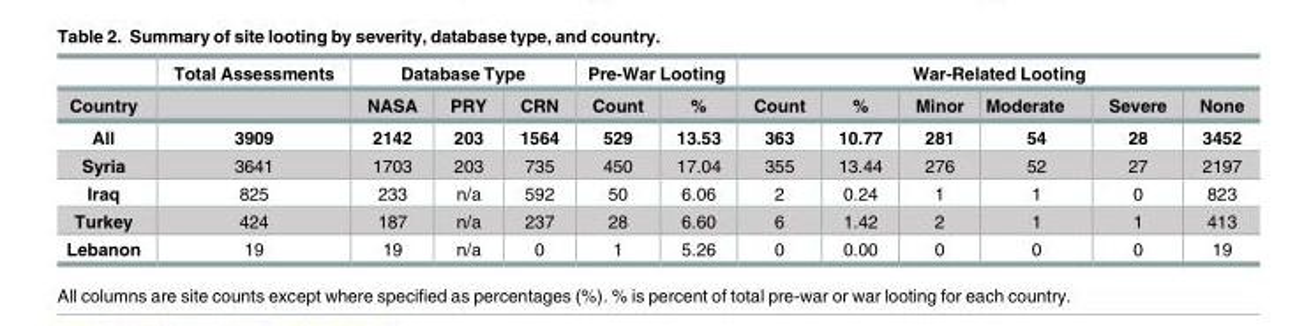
<table><thead><tr><td rowspan="2">Country</td><td rowspan="2">Total Assessments</td><td colspan="3">Database Type</td><td colspan="2">Pre-War Looting</td><td colspan="6">War-Related Looting</td></tr><tr><td>NASA</td><td>PRY</td><td>CRN</td><td>Count</td><td>%</td><td>Count</td><td>%</td><td>Minor</td><td>Moderate</td><td>Severe</td><td>None</td></tr></thead><tbody><tr><td>All</td><td>3909</td><td>2142</td><td>203</td><td>1564</td><td>529</td><td>13.53</td><td>363</td><td>10.77</td><td>281</td><td>54</td><td>28</td><td>3452</td></tr><tr><td>Syria</td><td>3641</td><td>1703</td><td>203</td><td>735</td><td>450</td><td>17.04</td><td>355</td><td>13.44</td><td>276</td><td>52</td><td>27</td><td>2197</td></tr><tr><td>Iraq</td><td>825</td><td>233</td><td>n/a</td><td>592</td><td>50</td><td>6.06</td><td>2</td><td>0.24</td><td>1</td><td>1</td><td>0</td><td>823</td></tr><tr><td>Turkey</td><td>424</td><td>187</td><td>n/a</td><td>237</td><td>28</td><td>6.60</td><td>6</td><td>1.42</td><td>2</td><td>1</td><td>1</td><td>413</td></tr><tr><td>Lebanon</td><td>19</td><td>19</td><td>n/a</td><td>0</td><td>1</td><td>5.26</td><td>0</td><td>0.00</td><td>0</td><td>0</td><td>0</td><td>19</td></tr></tbody></table>